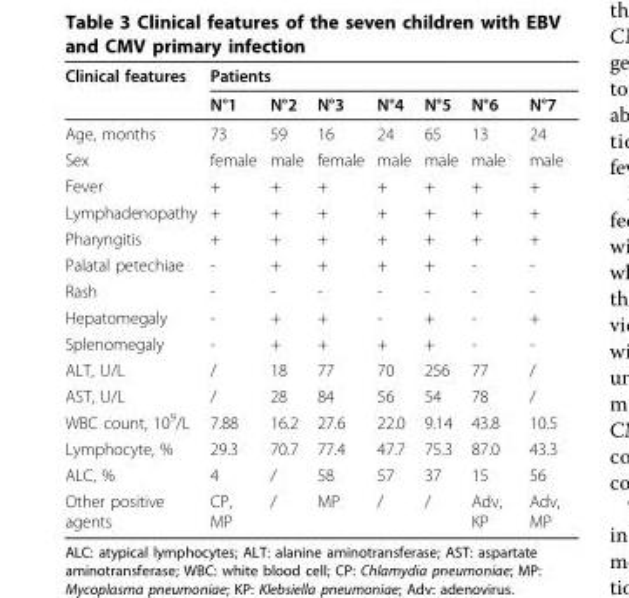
<table><thead><tr><td rowspan="2">Clinical features</td><td colspan="7">Patients</td></tr><tr><td>N°1</td><td>N°2</td><td>N°3</td><td>N°4</td><td>N°5</td><td>N°6</td><td>N°7</td></tr></thead><tbody><tr><td>Age, months</td><td>73</td><td>59</td><td>16</td><td>24</td><td>65</td><td>13</td><td>24</td></tr><tr><td>Sex</td><td>female</td><td>male</td><td>female</td><td>male</td><td>male</td><td>male</td><td>male</td></tr><tr><td>Fever</td><td>+</td><td>+</td><td>+</td><td>+</td><td>+</td><td>+</td><td>+</td></tr><tr><td>Lymphadenopathy</td><td>+</td><td>+</td><td>+</td><td>+</td><td>+</td><td>+</td><td>+</td></tr><tr><td>Pharyngitis</td><td>+</td><td>+</td><td>+</td><td>+</td><td>+</td><td>+</td><td>+</td></tr><tr><td>Palatal petechiae</td><td>-</td><td>+</td><td>+</td><td>+</td><td>+</td><td>-</td><td>-</td></tr><tr><td>Rash</td><td>-</td><td>-</td><td>-</td><td>-</td><td>-</td><td>-</td><td>-</td></tr><tr><td>Hepatomegaly</td><td>-</td><td>+</td><td>+</td><td>-</td><td>+</td><td>-</td><td>+</td></tr><tr><td>Splenomegaly</td><td>-</td><td>+</td><td>+</td><td>+</td><td>+</td><td>-</td><td>-</td></tr><tr><td>ALT, U/L</td><td>/</td><td>18</td><td>77</td><td>70</td><td>256</td><td>77</td><td>/</td></tr><tr><td>AST, U/L</td><td>/</td><td>28</td><td>84</td><td>56</td><td>54</td><td>78</td><td>/</td></tr><tr><td>WBC count, 10<sup>9</sup>/L</td><td>7.88</td><td>16.2</td><td>27.6</td><td>22.0</td><td>9.14</td><td>43.8</td><td>10.5</td></tr><tr><td>Lymphocyte, %</td><td>29.3</td><td>70.7</td><td>77.4</td><td>47.7</td><td>75.3</td><td>87.0</td><td>43.3</td></tr><tr><td>ALC, %</td><td>4</td><td>/</td><td>58</td><td>57</td><td>37</td><td>15</td><td>56</td></tr><tr><td>Other positive agents</td><td>CP, MP</td><td>/</td><td>MP</td><td>/</td><td>/</td><td>Adv, KP</td><td>Adv, MP</td></tr></tbody></table>